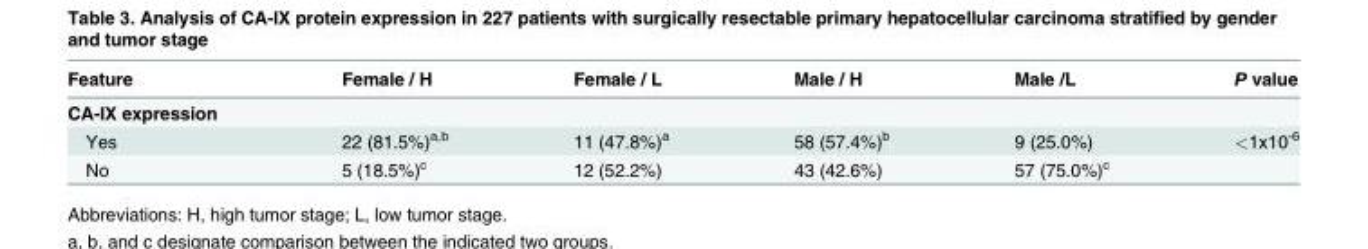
<table><thead><tr><td>Feature</td><td>Female / H</td><td>Female / L</td><td>Male / H</td><td>Male /L</td><td>P value</td></tr></thead><tbody><tr><td colspan="6">CA-IX expression</td></tr><tr><td>Yes</td><td>22 (81.5%)<sup>a,b</sup></td><td>11 (47.8%)<sup>a</sup></td><td>58 (57.4%)<sup>b</sup></td><td>9 (25.0%)</td><td>&lt;1x10<sup>-6</sup></td></tr><tr><td>No</td><td>5 (18.5%)<sup>c</sup></td><td>12 (52.2%)</td><td>43 (42.6%)</td><td>57 (75.0%)<sup>c</sup></td><td></td></tr></tbody></table>